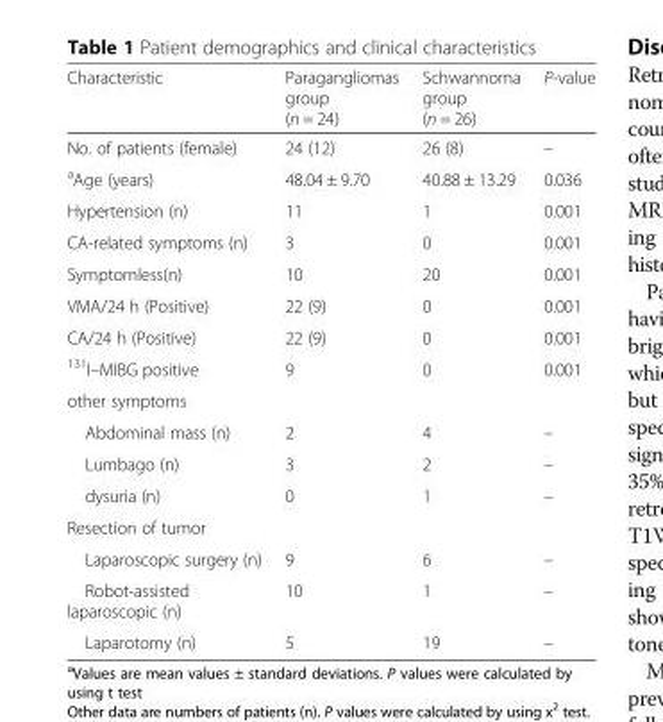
<table><thead><tr><td>Characteristic</td><td>Paragangliomas group (n = 24)</td><td>Schwannoma group (n = 26)</td><td>P-value</td></tr></thead><tbody><tr><td>No. of patients (female)</td><td>24 (12)</td><td>26 (8)</td><td>–</td></tr><tr><td><sup>a</sup>Age (years)</td><td>48.04 ± 9.70</td><td>40.88 ± 13.29</td><td>0.036</td></tr><tr><td>Hypertension (n)</td><td>11</td><td>1</td><td>0.001</td></tr><tr><td>CA-related symptoms (n)</td><td>3</td><td>0</td><td>0.001</td></tr><tr><td>Symptomless(n)</td><td>10</td><td>20</td><td>0.001</td></tr><tr><td>VMA/24 h (Positive)</td><td>22 (9)</td><td>0</td><td>0.001</td></tr><tr><td>CA/24 h (Positive)</td><td>22 (9)</td><td>0</td><td>0.001</td></tr><tr><td><sup>131</sup>I–MIBG positive</td><td>9</td><td>0</td><td>0.001</td></tr><tr><td colspan="4">other symptoms</td></tr><tr><td>Abdominal mass (n)</td><td>2</td><td>4</td><td>–</td></tr><tr><td>Lumbago (n)</td><td>3</td><td>2</td><td>–</td></tr><tr><td>dysuria (n)</td><td>0</td><td>1</td><td>–</td></tr><tr><td colspan="4">Resection of tumor</td></tr><tr><td>Laparoscopic surgery (n)</td><td>9</td><td>6</td><td>–</td></tr><tr><td>Robot-assisted laparoscopic (n)</td><td>10</td><td>1</td><td>–</td></tr><tr><td>Laparotomy (n)</td><td>5</td><td>19</td><td>–</td></tr></tbody></table>